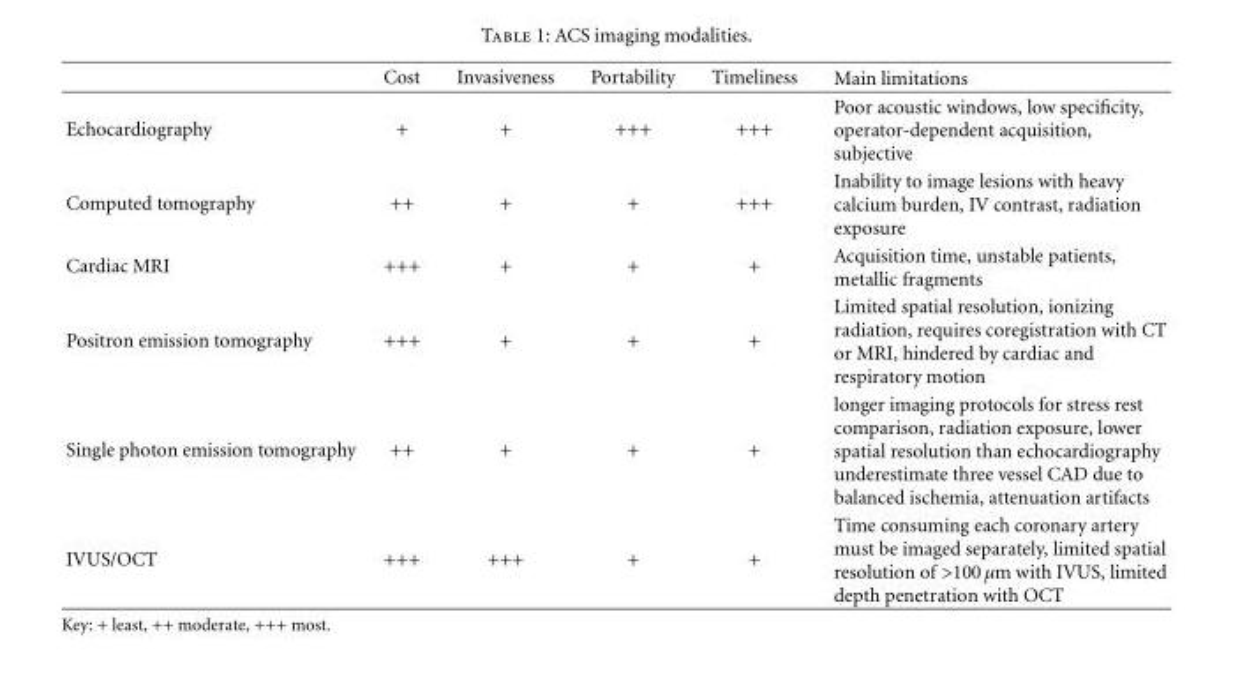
<table><thead><tr><td></td><td>Cost</td><td>Invasiveness</td><td>Portability</td><td>Timeliness</td><td>Main limitations</td></tr></thead><tbody><tr><td>Echocardiography</td><td>+</td><td>+</td><td>+++</td><td>+++</td><td>Poor acoustic windows, low specificity, operator-dependent acquisition, subjective</td></tr><tr><td>Computed tomography</td><td>++</td><td>+</td><td>+</td><td>+++</td><td>Inability to image lesions with heavy calcium burden, IV contrast, radiation exposure</td></tr><tr><td>Cardiac MRI</td><td>+++</td><td>+</td><td>+</td><td>+</td><td>Acquisition time, unstable patients, metallic fragments</td></tr><tr><td>Positron emission tomography</td><td>+++</td><td>+</td><td>+</td><td>+</td><td>Limited spatial resolution, ionizing radiation, requires coregistration with CT or MRI, hindered by cardiac and respiratory motion</td></tr><tr><td>Single photon emission tomography</td><td>++</td><td>+</td><td>+</td><td>+</td><td>longer imaging protocols for stress rest comparison, radiation exposure, lower spatial resolution than echocardiography underestimate three vessel CAD due to balanced ischemia, attenuation artifacts</td></tr><tr><td>IVUS/OCT</td><td>+++</td><td>+++</td><td>+</td><td>+</td><td>Time consuming each coronary artery must be imaged separately, limited spatial resolution of &gt;100 µm with IVUS, limited depth penetration with OCT</td></tr></tbody></table>